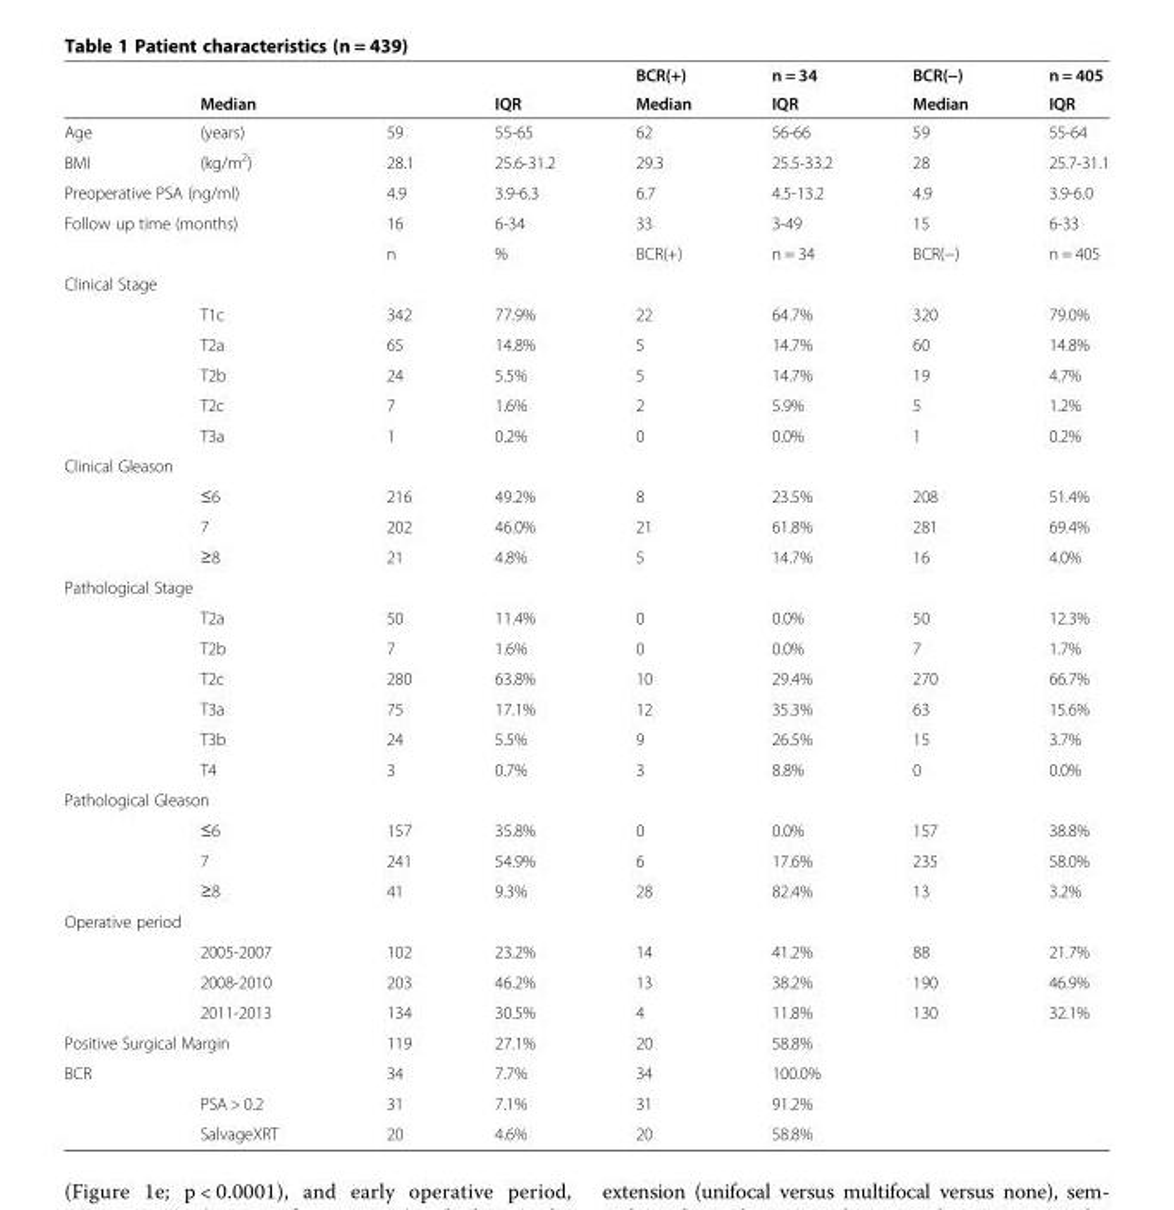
<table><thead><tr><td rowspan="2"></td><td></td><td></td><td rowspan="2">IQR</td><td rowspan="2">BCR(+) Median</td><td rowspan="2">n = 34 IQR</td><td rowspan="2">BCR(−) Median</td><td rowspan="2">n = 405 IQR</td></tr><tr><td colspan="2">Median</td></tr></thead><tbody><tr><td>Age</td><td>(years)</td><td>59</td><td>55-65</td><td>62</td><td>56-66</td><td>59</td><td>55-64</td></tr><tr><td>BMI</td><td>(kg/m<sup>2</sup>)</td><td>28.1</td><td>25.6-31.2</td><td>29.3</td><td>25.5-33.2</td><td>28</td><td>25.7-31.1</td></tr><tr><td colspan="2">Preoperative PSA (ng/ml)</td><td>4.9</td><td>3.9-6.3</td><td>6.7</td><td>4.5-13.2</td><td>4.9</td><td>3.9-6.0</td></tr><tr><td colspan="2">Follow up time (months)</td><td>16</td><td>6-34</td><td>33</td><td>3-49</td><td>15</td><td>6-33</td></tr><tr><td></td><td></td><td>n</td><td>%</td><td>BCR(+)</td><td>n = 34</td><td>BCR(−)</td><td>n = 405</td></tr><tr><td colspan="8">Clinical Stage</td></tr><tr><td></td><td>T1c</td><td>342</td><td>77.9%</td><td>22</td><td>64.7%</td><td>320</td><td>79.0%</td></tr><tr><td></td><td>T2a</td><td>65</td><td>14.8%</td><td>5</td><td>14.7%</td><td>60</td><td>14.8%</td></tr><tr><td></td><td>T2b</td><td>24</td><td>5.5%</td><td>5</td><td>14.7%</td><td>19</td><td>4.7%</td></tr><tr><td></td><td>T2c</td><td>7</td><td>1.6%</td><td>2</td><td>5.9%</td><td>5</td><td>1.2%</td></tr><tr><td></td><td>T3a</td><td>1</td><td>0.2%</td><td>0</td><td>0.0%</td><td>1</td><td>0.2%</td></tr><tr><td colspan="8">Clinical Gleason</td></tr><tr><td></td><td>≤6</td><td>216</td><td>49.2%</td><td>8</td><td>23.5%</td><td>208</td><td>51.4%</td></tr><tr><td></td><td>7</td><td>202</td><td>46.0%</td><td>21</td><td>61.8%</td><td>281</td><td>69.4%</td></tr><tr><td></td><td>≥8</td><td>21</td><td>4.8%</td><td>5</td><td>14.7%</td><td>16</td><td>4.0%</td></tr><tr><td colspan="8">Pathological Stage</td></tr><tr><td></td><td>T2a</td><td>50</td><td>11.4%</td><td>0</td><td>0.0%</td><td>50</td><td>12.3%</td></tr><tr><td></td><td>T2b</td><td>7</td><td>1.6%</td><td>0</td><td>0.0%</td><td>7</td><td>1.7%</td></tr><tr><td></td><td>T2c</td><td>280</td><td>63.8%</td><td>10</td><td>29.4%</td><td>270</td><td>66.7%</td></tr><tr><td></td><td>T3a</td><td>75</td><td>17.1%</td><td>12</td><td>35.3%</td><td>63</td><td>15.6%</td></tr><tr><td></td><td>T3b</td><td>24</td><td>5.5%</td><td>9</td><td>26.5%</td><td>15</td><td>3.7%</td></tr><tr><td></td><td>T4</td><td>3</td><td>0.7%</td><td>3</td><td>8.8%</td><td>0</td><td>0.0%</td></tr><tr><td colspan="8">Pathological Gleason</td></tr><tr><td></td><td>≤6</td><td>157</td><td>35.8%</td><td>0</td><td>0.0%</td><td>157</td><td>38.8%</td></tr><tr><td></td><td>7</td><td>241</td><td>54.9%</td><td>6</td><td>17.6%</td><td>235</td><td>58.0%</td></tr><tr><td></td><td>≥8</td><td>41</td><td>9.3%</td><td>28</td><td>82.4%</td><td>13</td><td>3.2%</td></tr><tr><td colspan="8">Operative period</td></tr><tr><td></td><td>2005-2007</td><td>102</td><td>23.2%</td><td>14</td><td>41.2%</td><td>88</td><td>21.7%</td></tr><tr><td></td><td>2008-2010</td><td>203</td><td>46.2%</td><td>13</td><td>38.2%</td><td>190</td><td>46.9%</td></tr><tr><td></td><td>2011-2013</td><td>134</td><td>30.5%</td><td>4</td><td>11.8%</td><td>130</td><td>32.1%</td></tr><tr><td colspan="2">Positive Surgical Margin</td><td>119</td><td>27.1%</td><td>20</td><td>58.8%</td><td></td><td></td></tr><tr><td rowspan="3">BCR</td><td></td><td>34</td><td>7.7%</td><td>34</td><td>100.0%</td><td></td><td></td></tr><tr><td>PSA &gt; 0.2</td><td>31</td><td>7.1%</td><td>31</td><td>91.2%</td><td></td><td></td></tr><tr><td>SalvageXRT</td><td>20</td><td>4.6%</td><td>20</td><td>58.8%</td><td></td><td></td></tr></tbody></table>